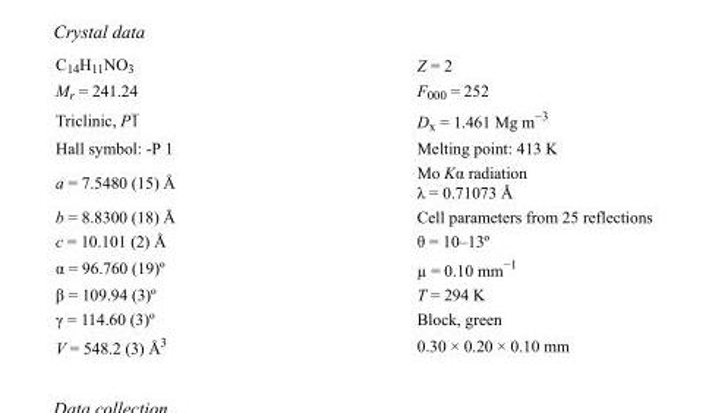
<table><tbody><tr><td>C<sub>14</sub>H<sub>11</sub>NO<sub>3</sub></td><td>Z = 2</td></tr><tr><td>M<sub>r</sub> = 241.24</td><td>F000 = 252</td></tr><tr><td>Triclinic, P1</td><td>D<sub>x</sub> = 1.461 Mg m<sup>−3</sup></td></tr><tr><td>Hall symbol: -P 1</td><td>Melting point: 413 K</td></tr><tr><td>a = 7.5480 (15) Å</td><td>Mo Kα radiation λ = 0.71073 Å</td></tr><tr><td>b = 8.8300 (18) Å</td><td>Cell parameters from 25 reflections</td></tr><tr><td>c = 10.101 (2) Å</td><td>θ = 10–13º</td></tr><tr><td>α = 96.760 (19)º</td><td>µ = 0.10 mm<sup>−1</sup></td></tr><tr><td>β = 109.94 (3)º</td><td>T = 294 K</td></tr><tr><td>γ = 114.60 (3)º</td><td>Block, green</td></tr><tr><td>V = 548.2 (3) Å<sup>3</sup></td><td>0.30 × 0.20 × 0.10 mm</td></tr></tbody></table>